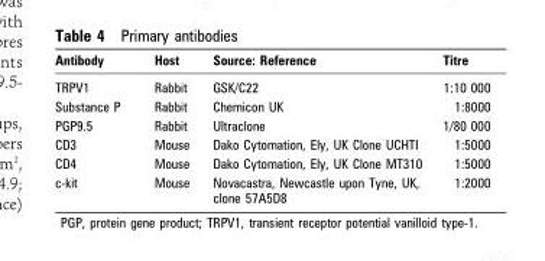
<table><thead><tr><td>Antibody</td><td>Host</td><td>Source: Reference</td><td>Titre</td></tr></thead><tbody><tr><td>TRPV1</td><td>Rabbit</td><td>GSK/C22</td><td>1:10 000</td></tr><tr><td>Substance P</td><td>Rabbit</td><td>Chemicon UK</td><td>1:8000</td></tr><tr><td>PGP9.5</td><td>Rabbit</td><td>Ultraclone</td><td>1/80 000</td></tr><tr><td>CD3</td><td>Mouse</td><td>Dako Cytomation, Ely, UK Clone UCHTI</td><td>1:5000</td></tr><tr><td>CD4</td><td>Mouse</td><td>Dako Cytomation, Ely, UK Clone MT310</td><td>1:5000</td></tr><tr><td>c-kit</td><td>Mouse</td><td>Novacastra, Newcastle upon Tyne, UK, clone 57A5D8</td><td>1:2000</td></tr></tbody></table>